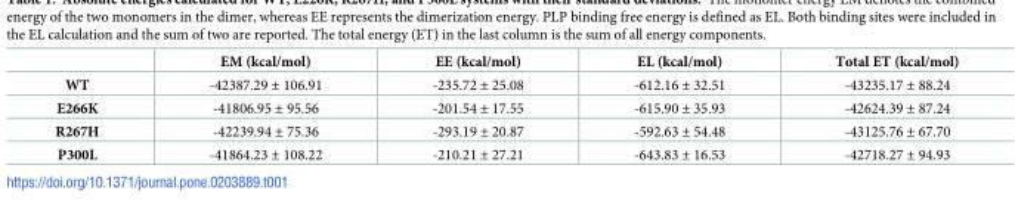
<table><thead><tr><td></td><td>EM (kcal/mol)</td><td>EE (kcal/mol)</td><td>EL (kcal/mol)</td><td>Total ET (kcal/mol)</td></tr></thead><tbody><tr><td>WT</td><td>-42387.29 ± 106.91</td><td>-235.72 ± 25.08</td><td>-612.16 ± 32.51</td><td>-43235.17 ± 88.24</td></tr><tr><td>E266K</td><td>-41806.95 ± 95.56</td><td>-201.54 ± 17.55</td><td>-615.90 ± 35.93</td><td>-42624.39 ± 87.24</td></tr><tr><td>R267H</td><td>-42239.94 ± 75.36</td><td>-293.19 ± 20.87</td><td>-592.63 ± 54.48</td><td>-43125.76 ± 67.70</td></tr><tr><td>P300L</td><td>-41864.23 ± 108.22</td><td>-210.21 ± 27.21</td><td>-643.83 ± 16.53</td><td>-42718.27 ± 94.93</td></tr></tbody></table>